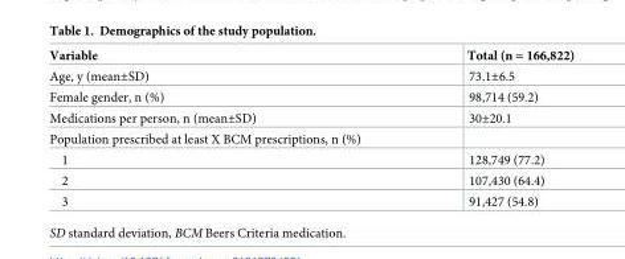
<table><thead><tr><td>Variable</td><td>Total (n = 166,822)</td></tr></thead><tbody><tr><td>Age, y (mean±SD)</td><td>73.1±6.5</td></tr><tr><td>Female gender, n (%)</td><td>98,714 (59.2)</td></tr><tr><td>Medications per person, n (mean±SD)</td><td>30±20.1</td></tr><tr><td colspan="2">Population prescribed at least X BCM prescriptions, n (%)</td></tr><tr><td>1</td><td>128,749 (77.2)</td></tr><tr><td>2</td><td>107,430 (64.4)</td></tr><tr><td>3</td><td>91,427 (54.8)</td></tr></tbody></table>